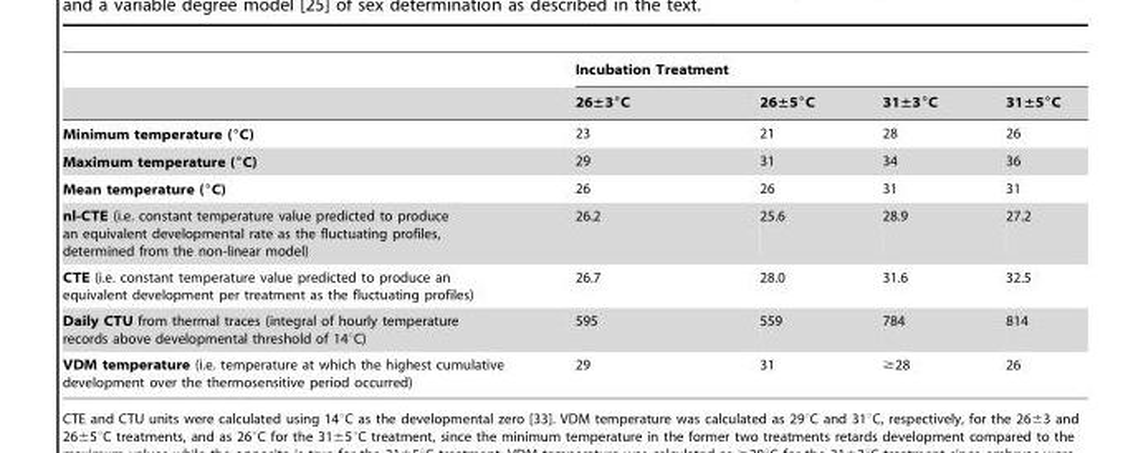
<table><thead><tr><td rowspan="2"></td><td colspan="4">Incubation Treatment</td></tr><tr><td>26±3°C</td><td>26±5°C</td><td>31±3°C</td><td>31±5°C</td></tr></thead><tbody><tr><td>Minimum temperature (°C)</td><td>23</td><td>21</td><td>28</td><td>26</td></tr><tr><td>Maximum temperature (°C)</td><td>29</td><td>31</td><td>34</td><td>36</td></tr><tr><td>Mean temperature (°C)</td><td>26</td><td>26</td><td>31</td><td>31</td></tr><tr><td>nl-CTE (i.e. constant temperature value predicted to produce an equivalent developmental rate as the fluctuating profiles, determined from the non-linear model)</td><td>26.2</td><td>25.6</td><td>28.9</td><td>27.2</td></tr><tr><td>CTE (i.e. constant temperature value predicted to produce an equivalent development per treatment as the fluctuating profiles)</td><td>26.7</td><td>28.0</td><td>31.6</td><td>32.5</td></tr><tr><td>Daily CTU from thermal traces (integral of hourly temperature records above developmental threshold of 14°C)</td><td>595</td><td>559</td><td>784</td><td>814</td></tr><tr><td>VDM temperature (i.e. temperature at which the highest cumulative development over the thermosensitive period occurred)</td><td>29</td><td>31</td><td>≥28</td><td>26</td></tr></tbody></table>